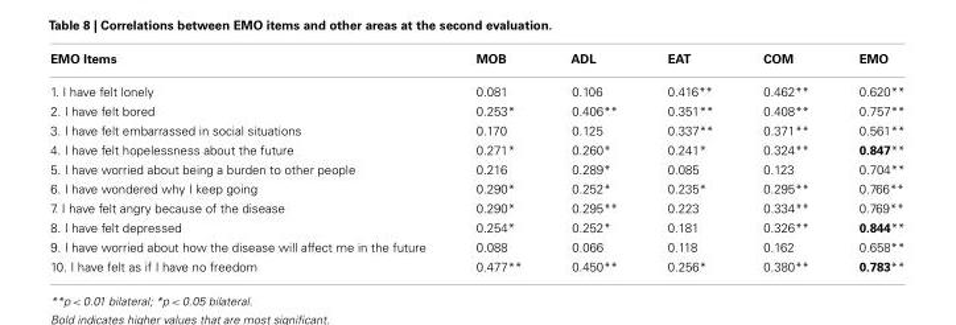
<table><thead><tr><td>EMO Items</td><td>MOB</td><td>ADL</td><td>EAT</td><td>COM</td><td>EMO</td></tr></thead><tbody><tr><td>1. I have felt lonely</td><td>0.081</td><td>0.106</td><td>0.416**</td><td>0.462**</td><td>0.620**</td></tr><tr><td>2. I have felt bored</td><td>0.253*</td><td>0.406**</td><td>0.351**</td><td>0.408**</td><td>0.757**</td></tr><tr><td>3. I have felt embarrassed in social situations</td><td>0.170</td><td>0.125</td><td>0.337**</td><td>0.371**</td><td>0.561**</td></tr><tr><td>4. I have felt hopelessness about the future</td><td>0.271*</td><td>0.260*</td><td>0.241*</td><td>0.324**</td><td>0.847**</td></tr><tr><td>5. I have worried about being a burden to other people</td><td>0.216</td><td>0.289*</td><td>0.085</td><td>0.123</td><td>0.704**</td></tr><tr><td>6. I have wondered why I keep going</td><td>0.290*</td><td>0.252*</td><td>0.235*</td><td>0.295**</td><td>0.766**</td></tr><tr><td>7. I have felt angry because of the disease</td><td>0.290*</td><td>0.295**</td><td>0.223</td><td>0.334**</td><td>0.769**</td></tr><tr><td>8. I have felt depressed</td><td>0.254*</td><td>0.252*</td><td>0.181</td><td>0.326**</td><td>0.844**</td></tr><tr><td>9. I have worried about how the disease will affect me in the future</td><td>0.088</td><td>0.066</td><td>0.118</td><td>0.162</td><td>0.658**</td></tr><tr><td>10. I have felt as if I have no freedom</td><td>0.477**</td><td>0.450**</td><td>0.256*</td><td>0.380**</td><td>0.783**</td></tr></tbody></table>